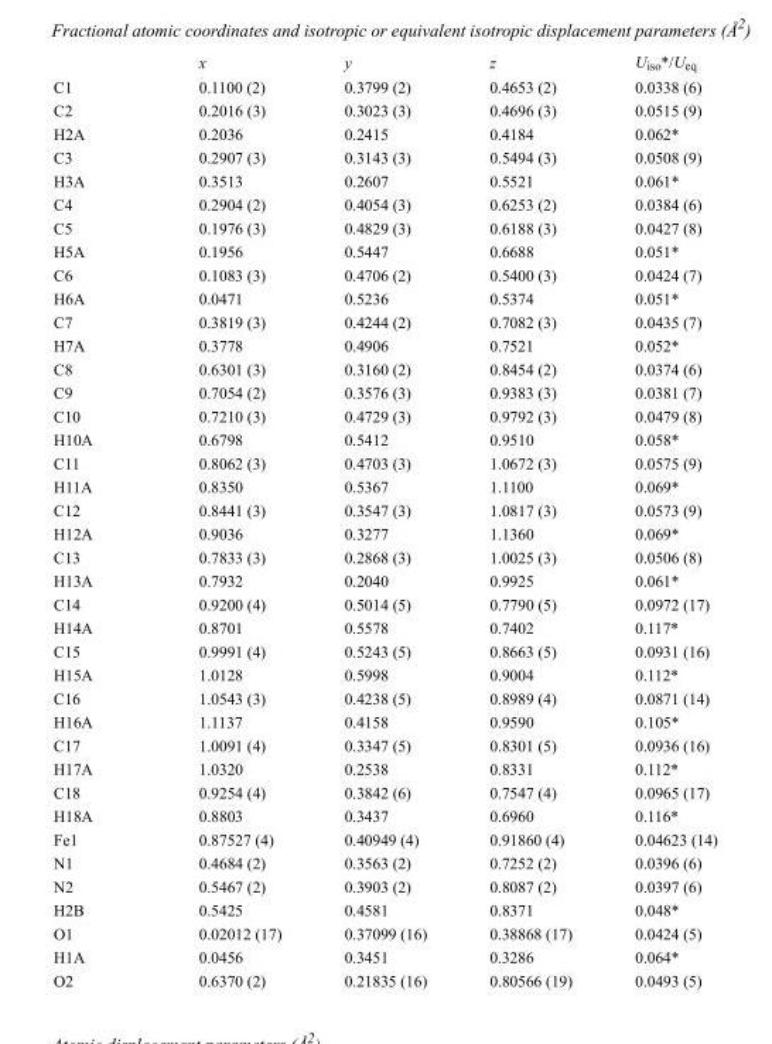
<table><thead><tr><td></td><td>x</td><td>y</td><td>z</td><td>U<sub>iso</sub>*/U<sub>eq</sub></td></tr></thead><tbody><tr><td>C1</td><td>0.1100 (2)</td><td>0.3799 (2)</td><td>0.4653 (2)</td><td>0.0338 (6)</td></tr><tr><td>C2</td><td>0.2016 (3)</td><td>0.3023 (3)</td><td>0.4696 (3)</td><td>0.0515 (9)</td></tr><tr><td>H2A</td><td>0.2036</td><td>0.2415</td><td>0.4184</td><td>0.062*</td></tr><tr><td>C3</td><td>0.2907 (3)</td><td>0.3143 (3)</td><td>0.5494 (3)</td><td>0.0508 (9)</td></tr><tr><td>H3A</td><td>0.3513</td><td>0.2607</td><td>0.5521</td><td>0.061*</td></tr><tr><td>C4</td><td>0.2904 (2)</td><td>0.4054 (3)</td><td>0.6253 (2)</td><td>0.0384 (6)</td></tr><tr><td>C5</td><td>0.1976 (3)</td><td>0.4829 (3)</td><td>0.6188 (3)</td><td>0.0427 (8)</td></tr><tr><td>H5A</td><td>0.1956</td><td>0.5447</td><td>0.6688</td><td>0.051*</td></tr><tr><td>C6</td><td>0.1083 (3)</td><td>0.4706 (2)</td><td>0.5400 (3)</td><td>0.0424 (7)</td></tr><tr><td>H6A</td><td>0.0471</td><td>0.5236</td><td>0.5374</td><td>0.051*</td></tr><tr><td>C7</td><td>0.3819 (3)</td><td>0.4244 (2)</td><td>0.7082 (3)</td><td>0.0435 (7)</td></tr><tr><td>H7A</td><td>0.3778</td><td>0.4906</td><td>0.7521</td><td>0.052*</td></tr><tr><td>C8</td><td>0.6301 (3)</td><td>0.3160 (2)</td><td>0.8454 (2)</td><td>0.0374 (6)</td></tr><tr><td>C9</td><td>0.7054 (2)</td><td>0.3576 (3)</td><td>0.9383 (3)</td><td>0.0381 (7)</td></tr><tr><td>C10</td><td>0.7210 (3)</td><td>0.4729 (3)</td><td>0.9792 (3)</td><td>0.0479 (8)</td></tr><tr><td>H10A</td><td>0.6798</td><td>0.5412</td><td>0.9510</td><td>0.058*</td></tr><tr><td>C11</td><td>0.8062 (3)</td><td>0.4703 (3)</td><td>1.0672 (3)</td><td>0.0575 (9)</td></tr><tr><td>H11A</td><td>0.8350</td><td>0.5367</td><td>1.1100</td><td>0.069*</td></tr><tr><td>C12</td><td>0.8441 (3)</td><td>0.3547 (3)</td><td>1.0817 (3)</td><td>0.0573 (9)</td></tr><tr><td>H12A</td><td>0.9036</td><td>0.3277</td><td>1.1360</td><td>0.069*</td></tr><tr><td>C13</td><td>0.7833 (3)</td><td>0.2868 (3)</td><td>1.0025 (3)</td><td>0.0506 (8)</td></tr><tr><td>H13A</td><td>0.7932</td><td>0.2040</td><td>0.9925</td><td>0.061*</td></tr><tr><td>C14</td><td>0.9200 (4)</td><td>0.5014 (5)</td><td>0.7790 (5)</td><td>0.0972 (17)</td></tr><tr><td>H14A</td><td>0.8701</td><td>0.5578</td><td>0.7402</td><td>0.117*</td></tr><tr><td>C15</td><td>0.9991 (4)</td><td>0.5243 (5)</td><td>0.8663 (5)</td><td>0.0931 (16)</td></tr><tr><td>H15A</td><td>1.0128</td><td>0.5998</td><td>0.9004</td><td>0.112*</td></tr><tr><td>C16</td><td>1.0543 (3)</td><td>0.4238 (5)</td><td>0.8989 (4)</td><td>0.0871 (14)</td></tr><tr><td>H16A</td><td>1.1137</td><td>0.4158</td><td>0.9590</td><td>0.105*</td></tr><tr><td>C17</td><td>1.0091 (4)</td><td>0.3347 (5)</td><td>0.8301 (5)</td><td>0.0936 (16)</td></tr><tr><td>H17A</td><td>1.0320</td><td>0.2538</td><td>0.8331</td><td>0.112*</td></tr><tr><td>C18</td><td>0.9254 (4)</td><td>0.3842 (6)</td><td>0.7547 (4)</td><td>0.0965 (17)</td></tr><tr><td>H18A</td><td>0.8803</td><td>0.3437</td><td>0.6960</td><td>0.116*</td></tr><tr><td>Fe1</td><td>0.87527 (4)</td><td>0.40949 (4)</td><td>0.91860 (4)</td><td>0.04623 (14)</td></tr><tr><td>N1</td><td>0.4684 (2)</td><td>0.3563 (2)</td><td>0.7252 (2)</td><td>0.0396 (6)</td></tr><tr><td>N2</td><td>0.5467 (2)</td><td>0.3903 (2)</td><td>0.8087 (2)</td><td>0.0397 (6)</td></tr><tr><td>H2B</td><td>0.5425</td><td>0.4581</td><td>0.8371</td><td>0.048*</td></tr><tr><td>O1</td><td>0.02012 (17)</td><td>0.37099 (16)</td><td>0.38868 (17)</td><td>0.0424 (5)</td></tr><tr><td>H1A</td><td>0.0456</td><td>0.3451</td><td>0.3286</td><td>0.064*</td></tr><tr><td>O2</td><td>0.6370 (2)</td><td>0.21835 (16)</td><td>0.80566 (19)</td><td>0.0493 (5)</td></tr></tbody></table>